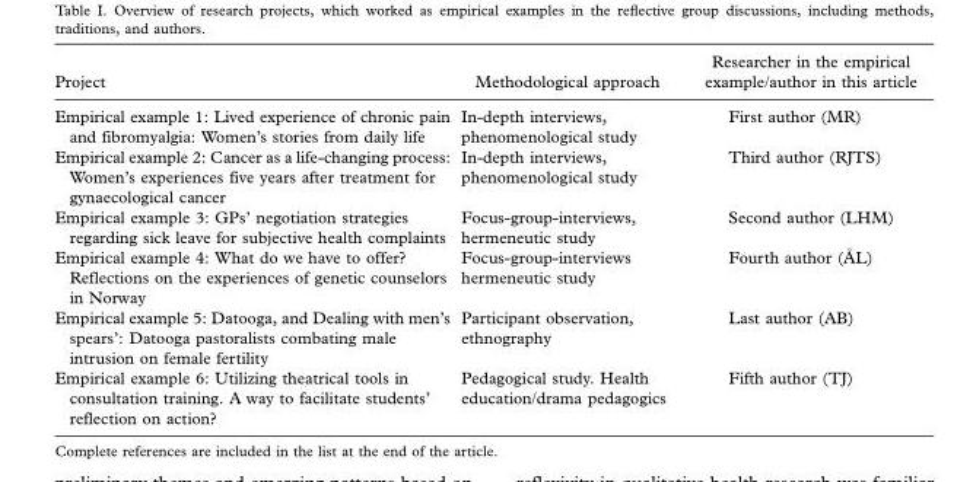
<table><thead><tr><td>Project</td><td>Methodological approach</td><td>Researcher in the empirical example/author in this article</td></tr></thead><tbody><tr><td>Empirical example 1: Lived experience of chronic pain and fibromyalgia: Women’s stories from daily life</td><td>In-depth interviews, phenomenological study</td><td>First author (MR)</td></tr><tr><td>Empirical example 2: Cancer as a life-changing process: Women’s experiences five years after treatment for gynaecological cancer</td><td>In-depth interviews, phenomenological study</td><td>Third author (RJTS)</td></tr><tr><td>Empirical example 3: GPs’ negotiation strategies regarding sick leave for subjective health complaints</td><td>Focus-group-interviews, hermeneutic study</td><td>Second author (LHM)</td></tr><tr><td>Empirical example 4: What do we have to offer? Reflections on the experiences of genetic counselors in Norway</td><td>Focus-group-interviews hermeneutic study</td><td>Fourth author (A˚ L)</td></tr><tr><td>Empirical example 5: Datooga, and Dealing with men’s spears’: Datooga pastoralists combating male intrusion on female fertility</td><td>Participant observation, ethnography</td><td>Last author (AB)</td></tr><tr><td>Empirical example 6: Utilizing theatrical tools in consultation training. A way to facilitate students’ reflection on action?</td><td>Pedagogical study. Health education/drama pedagogics</td><td>Fifth author (TJ)</td></tr></tbody></table>